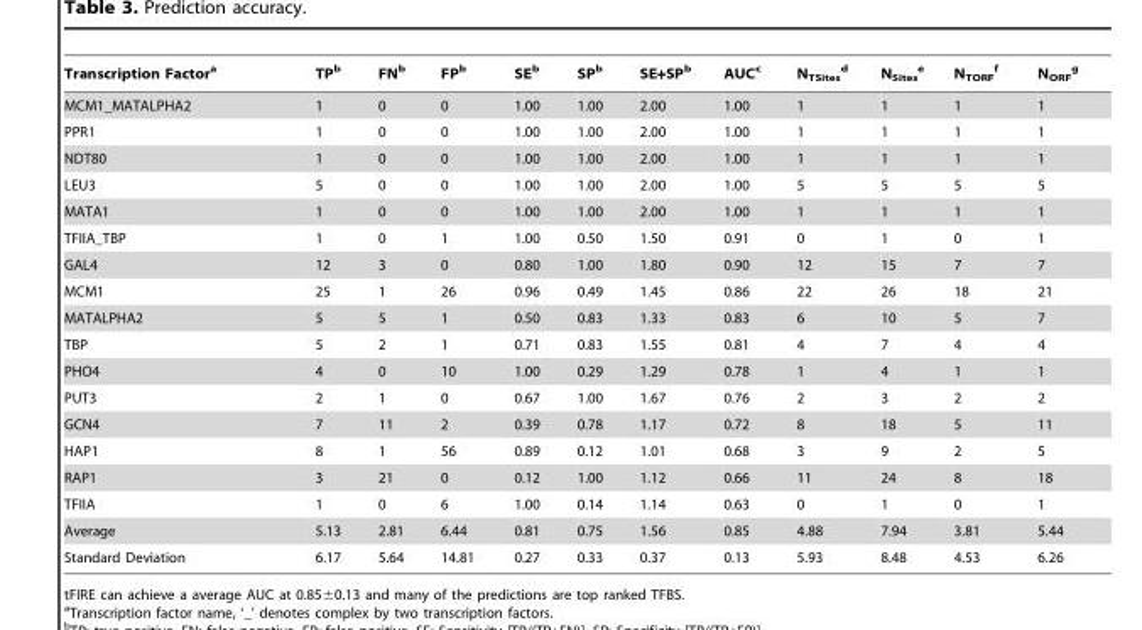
<table><thead><tr><td>Transcription Factor<sup>a</sup></td><td>TP<sup>b</sup></td><td>FN<sup>b</sup></td><td>FP<sup>b</sup></td><td>SE<sup>b</sup></td><td>SP<sup>b</sup></td><td>SE+SP<sup>b</sup></td><td>AUC<sup>c</sup></td><td>N<sub>TSites</sub> d</td><td>N<sub>Sites</sub> e</td><td>N<sub>TORF</sub> f</td><td>N<sub>ORF</sub> g</td></tr></thead><tbody><tr><td>MCM1_MATALPHA2</td><td>1</td><td>0</td><td>0</td><td>1.00</td><td>1.00</td><td>2.00</td><td>1.00</td><td>1</td><td>1</td><td>1</td><td>1</td></tr><tr><td>PPR1</td><td>1</td><td>0</td><td>0</td><td>1.00</td><td>1.00</td><td>2.00</td><td>1.00</td><td>1</td><td>1</td><td>1</td><td>1</td></tr><tr><td>NDT80</td><td>1</td><td>0</td><td>0</td><td>1.00</td><td>1.00</td><td>2.00</td><td>1.00</td><td>1</td><td>1</td><td>1</td><td>1</td></tr><tr><td>LEU3</td><td>5</td><td>0</td><td>0</td><td>1.00</td><td>1.00</td><td>2.00</td><td>1.00</td><td>5</td><td>5</td><td>5</td><td>5</td></tr><tr><td>MATA1</td><td>1</td><td>0</td><td>0</td><td>1.00</td><td>1.00</td><td>2.00</td><td>1.00</td><td>1</td><td>1</td><td>1</td><td>1</td></tr><tr><td>TFIIA_TBP</td><td>1</td><td>0</td><td>1</td><td>1.00</td><td>0.50</td><td>1.50</td><td>0.91</td><td>0</td><td>1</td><td>0</td><td>1</td></tr><tr><td>GAL4</td><td>12</td><td>3</td><td>0</td><td>0.80</td><td>1.00</td><td>1.80</td><td>0.90</td><td>12</td><td>15</td><td>7</td><td>7</td></tr><tr><td>MCM1</td><td>25</td><td>1</td><td>26</td><td>0.96</td><td>0.49</td><td>1.45</td><td>0.86</td><td>22</td><td>26</td><td>18</td><td>21</td></tr><tr><td>MATALPHA2</td><td>5</td><td>5</td><td>1</td><td>0.50</td><td>0.83</td><td>1.33</td><td>0.83</td><td>6</td><td>10</td><td>5</td><td>7</td></tr><tr><td>TBP</td><td>5</td><td>2</td><td>1</td><td>0.71</td><td>0.83</td><td>1.55</td><td>0.81</td><td>4</td><td>7</td><td>4</td><td>4</td></tr><tr><td>PHO4</td><td>4</td><td>0</td><td>10</td><td>1.00</td><td>0.29</td><td>1.29</td><td>0.78</td><td>1</td><td>4</td><td>1</td><td>1</td></tr><tr><td>PUT3</td><td>2</td><td>1</td><td>0</td><td>0.67</td><td>1.00</td><td>1.67</td><td>0.76</td><td>2</td><td>3</td><td>2</td><td>2</td></tr><tr><td>GCN4</td><td>7</td><td>11</td><td>2</td><td>0.39</td><td>0.78</td><td>1.17</td><td>0.72</td><td>8</td><td>18</td><td>5</td><td>11</td></tr><tr><td>HAP1</td><td>8</td><td>1</td><td>56</td><td>0.89</td><td>0.12</td><td>1.01</td><td>0.68</td><td>3</td><td>9</td><td>2</td><td>5</td></tr><tr><td>RAP1</td><td>3</td><td>21</td><td>0</td><td>0.12</td><td>1.00</td><td>1.12</td><td>0.66</td><td>11</td><td>24</td><td>8</td><td>18</td></tr><tr><td>TFIIA</td><td>1</td><td>0</td><td>6</td><td>1.00</td><td>0.14</td><td>1.14</td><td>0.63</td><td>0</td><td>1</td><td>0</td><td>1</td></tr><tr><td>Average</td><td>5.13</td><td>2.81</td><td>6.44</td><td>0.81</td><td>0.75</td><td>1.56</td><td>0.85</td><td>4.88</td><td>7.94</td><td>3.81</td><td>5.44</td></tr><tr><td>Standard Deviation</td><td>6.17</td><td>5.64</td><td>14.81</td><td>0.27</td><td>0.33</td><td>0.37</td><td>0.13</td><td>5.93</td><td>8.48</td><td>4.53</td><td>6.26</td></tr></tbody></table>